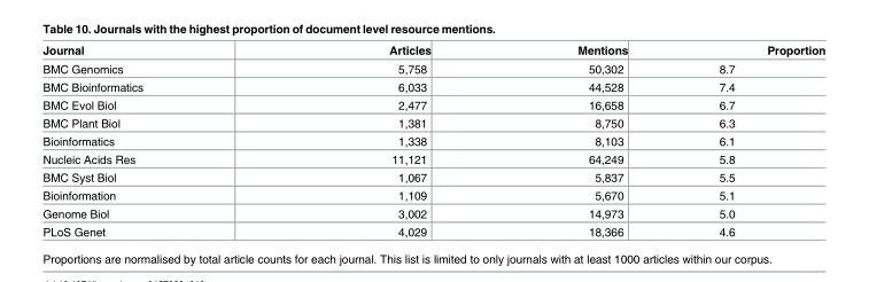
<table><thead><tr><td>Journal</td><td>Articles</td><td>Mentions</td><td>Proportion</td></tr></thead><tbody><tr><td>BMC Genomics</td><td>5,758</td><td>50,302</td><td>8.7</td></tr><tr><td>BMC Bioinformatics</td><td>6,033</td><td>44,528</td><td>7.4</td></tr><tr><td>BMC Evol Biol</td><td>2,477</td><td>16,658</td><td>6.7</td></tr><tr><td>BMC Plant Biol</td><td>1,381</td><td>8,750</td><td>6.3</td></tr><tr><td>Bioinformatics</td><td>1,338</td><td>8,103</td><td>6.1</td></tr><tr><td>Nucleic Acids Res</td><td>11,121</td><td>64,249</td><td>5.8</td></tr><tr><td>BMC Syst Biol</td><td>1,067</td><td>5,837</td><td>5.5</td></tr><tr><td>Bioinformation</td><td>1,109</td><td>5,670</td><td>5.1</td></tr><tr><td>Genome Biol</td><td>3,002</td><td>14,973</td><td>5.0</td></tr><tr><td>PLoS Genet</td><td>4,029</td><td>18,366</td><td>4.6</td></tr></tbody></table>